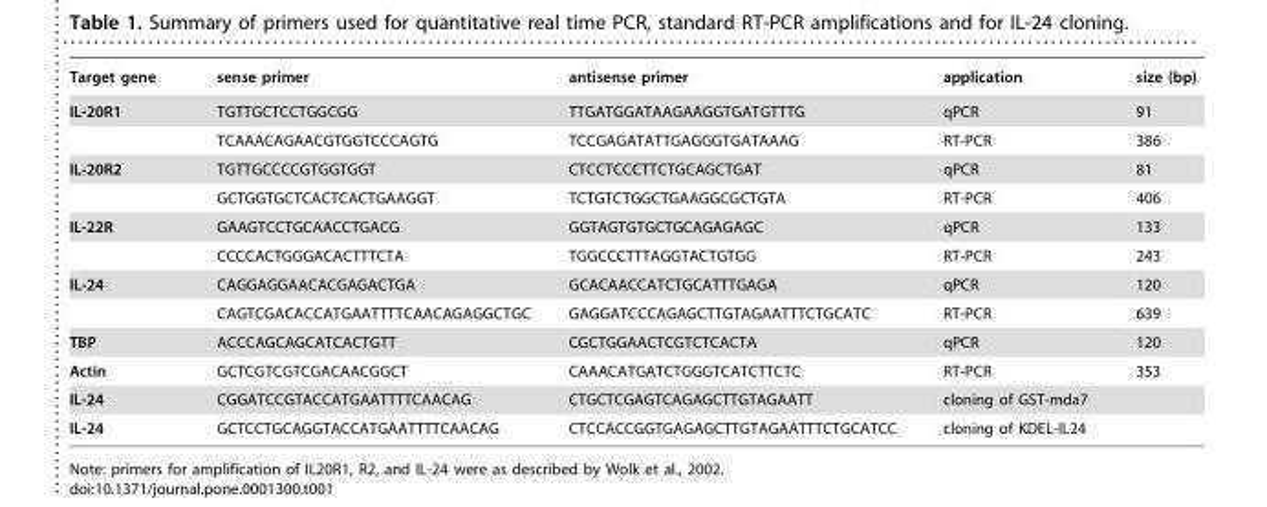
<table><thead><tr><td>Target gene</td><td>sense primer</td><td>antisense primer</td><td>application</td><td>size (bp)</td></tr></thead><tbody><tr><td rowspan="2">IL-20R1</td><td>TGTTGCTCCTGGCGG</td><td>TTGATGGATAAGAAGGTGATGTTTG</td><td>qPCR</td><td>91</td></tr><tr><td>TCAAACAGAACGTGGTCCCAGTG</td><td>TCCGAGATATTGAGGGTGATAAAG</td><td>RT-PCR</td><td>386</td></tr><tr><td rowspan="2">IL-20R2</td><td>TGTTGCCCCGTGGTGGT</td><td>CTCCTCCCTTCTGCAGCTGAT</td><td>qPCR</td><td>81</td></tr><tr><td>GCTGGTGCTCACTCACTGAAGGT</td><td>TCTGTCTGGCTGAAGGCGCTGTA</td><td>RT-PCR</td><td>406</td></tr><tr><td rowspan="2">IL-22R</td><td>GAAGTCCTGCAACCTGACG</td><td>GGTAGTGTGCTGCAGAGAGC</td><td>qPCR</td><td>133</td></tr><tr><td>CCCCACTGGGACACTTTCTA</td><td>TGGCCCTTTAGGTACTGTGG</td><td>RT-PCR</td><td>243</td></tr><tr><td rowspan="2">IL-24</td><td>CAGGAGGAACACGAGACTGA</td><td>GCACAACCATCTGCATTTGAGA</td><td>qPCR</td><td>120</td></tr><tr><td>CAGTCGACACCATGAATTTTCAACAGAGGCTGC</td><td>GAGGATCCCAGAGCTTGTAGAATTTCTGCATC</td><td>RT-PCR</td><td>639</td></tr><tr><td>TBP</td><td>ACCCAGCAGCATCACTGTT</td><td>CGCTGGAACTCGTCTCACTA</td><td>qPCR</td><td>120</td></tr><tr><td>Actin</td><td>GCTCGTCGTCGACAACGGCT</td><td>CAAACATGATCTGGGTCATCTTCTC</td><td>RT-PCR</td><td>353</td></tr><tr><td>IL-24</td><td>CGGATCCGTACCATGAATTTTCAACAG</td><td>CTGCTCGAGTCAGAGCTTGTAGAATT</td><td colspan="2">cloning of GST-mda7</td></tr><tr><td>IL-24</td><td>GCTCCTGCAGGTACCATGAATTTTCAACAG</td><td>CTCCACCGGTGAGAGCTTGTAGAATTTCTGCATCC</td><td colspan="2">cloning of KDEL-IL24</td></tr></tbody></table>